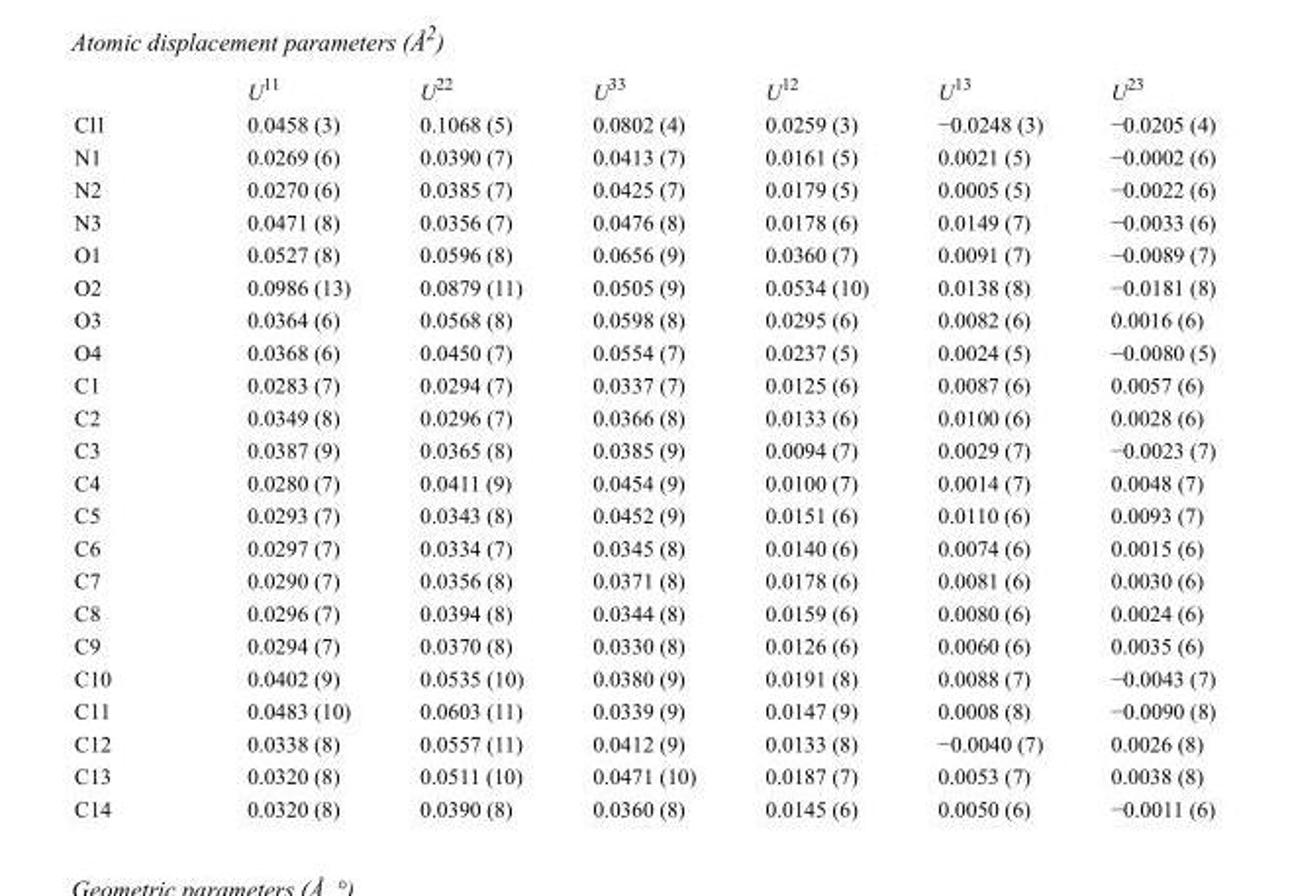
<table><thead><tr><td></td><td>U<sup>11</sup></td><td>U<sup>22</sup></td><td>U<sup>33</sup></td><td>U<sup>12</sup></td><td>U<sup>13</sup></td><td>U<sup>23</sup></td></tr></thead><tbody><tr><td>Cl1</td><td>0.0458 (3)</td><td>0.1068 (5)</td><td>0.0802 (4)</td><td>0.0259 (3)</td><td>−0.0248 (3)</td><td>−0.0205 (4)</td></tr><tr><td>N1</td><td>0.0269 (6)</td><td>0.0390 (7)</td><td>0.0413 (7)</td><td>0.0161 (5)</td><td>0.0021 (5)</td><td>−0.0002 (6)</td></tr><tr><td>N2</td><td>0.0270 (6)</td><td>0.0385 (7)</td><td>0.0425 (7)</td><td>0.0179 (5)</td><td>0.0005 (5)</td><td>−0.0022 (6)</td></tr><tr><td>N3</td><td>0.0471 (8)</td><td>0.0356 (7)</td><td>0.0476 (8)</td><td>0.0178 (6)</td><td>0.0149 (7)</td><td>−0.0033 (6)</td></tr><tr><td>O1</td><td>0.0527 (8)</td><td>0.0596 (8)</td><td>0.0656 (9)</td><td>0.0360 (7)</td><td>0.0091 (7)</td><td>−0.0089 (7)</td></tr><tr><td>O2</td><td>0.0986 (13)</td><td>0.0879 (11)</td><td>0.0505 (9)</td><td>0.0534 (10)</td><td>0.0138 (8)</td><td>−0.0181 (8)</td></tr><tr><td>O3</td><td>0.0364 (6)</td><td>0.0568 (8)</td><td>0.0598 (8)</td><td>0.0295 (6)</td><td>0.0082 (6)</td><td>0.0016 (6)</td></tr><tr><td>O4</td><td>0.0368 (6)</td><td>0.0450 (7)</td><td>0.0554 (7)</td><td>0.0237 (5)</td><td>0.0024 (5)</td><td>−0.0080 (5)</td></tr><tr><td>C1</td><td>0.0283 (7)</td><td>0.0294 (7)</td><td>0.0337 (7)</td><td>0.0125 (6)</td><td>0.0087 (6)</td><td>0.0057 (6)</td></tr><tr><td>C2</td><td>0.0349 (8)</td><td>0.0296 (7)</td><td>0.0366 (8)</td><td>0.0133 (6)</td><td>0.0100 (6)</td><td>0.0028 (6)</td></tr><tr><td>C3</td><td>0.0387 (9)</td><td>0.0365 (8)</td><td>0.0385 (9)</td><td>0.0094 (7)</td><td>0.0029 (7)</td><td>−0.0023 (7)</td></tr><tr><td>C4</td><td>0.0280 (7)</td><td>0.0411 (9)</td><td>0.0454 (9)</td><td>0.0100 (7)</td><td>0.0014 (7)</td><td>0.0048 (7)</td></tr><tr><td>C5</td><td>0.0293 (7)</td><td>0.0343 (8)</td><td>0.0452 (9)</td><td>0.0151 (6)</td><td>0.0110 (6)</td><td>0.0093 (7)</td></tr><tr><td>C6</td><td>0.0297 (7)</td><td>0.0334 (7)</td><td>0.0345 (8)</td><td>0.0140 (6)</td><td>0.0074 (6)</td><td>0.0015 (6)</td></tr><tr><td>C7</td><td>0.0290 (7)</td><td>0.0356 (8)</td><td>0.0371 (8)</td><td>0.0178 (6)</td><td>0.0081 (6)</td><td>0.0030 (6)</td></tr><tr><td>C8</td><td>0.0296 (7)</td><td>0.0394 (8)</td><td>0.0344 (8)</td><td>0.0159 (6)</td><td>0.0080 (6)</td><td>0.0024 (6)</td></tr><tr><td>C9</td><td>0.0294 (7)</td><td>0.0370 (8)</td><td>0.0330 (8)</td><td>0.0126 (6)</td><td>0.0060 (6)</td><td>0.0035 (6)</td></tr><tr><td>C10</td><td>0.0402 (9)</td><td>0.0535 (10)</td><td>0.0380 (9)</td><td>0.0191 (8)</td><td>0.0088 (7)</td><td>−0.0043 (7)</td></tr><tr><td>C11</td><td>0.0483 (10)</td><td>0.0603 (11)</td><td>0.0339 (9)</td><td>0.0147 (9)</td><td>0.0008 (8)</td><td>−0.0090 (8)</td></tr><tr><td>C12</td><td>0.0338 (8)</td><td>0.0557 (11)</td><td>0.0412 (9)</td><td>0.0133 (8)</td><td>−0.0040 (7)</td><td>0.0026 (8)</td></tr><tr><td>C13</td><td>0.0320 (8)</td><td>0.0511 (10)</td><td>0.0471 (10)</td><td>0.0187 (7)</td><td>0.0053 (7)</td><td>0.0038 (8)</td></tr><tr><td>C14</td><td>0.0320 (8)</td><td>0.0390 (8)</td><td>0.0360 (8)</td><td>0.0145 (6)</td><td>0.0050 (6)</td><td>−0.0011 (6)</td></tr></tbody></table>